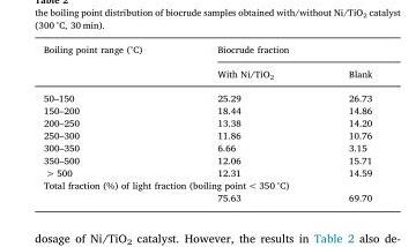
<table><thead><tr><td rowspan="2">Boiling point range (°C)</td><td colspan="2">Biocrude fraction</td></tr><tr><td>With Ni/TiO<sub>2</sub></td><td>Blank</td></tr></thead><tbody><tr><td>50–150</td><td>25.29</td><td>26.73</td></tr><tr><td>150–200</td><td>18.44</td><td>14.86</td></tr><tr><td>200–250</td><td>13.38</td><td>14.20</td></tr><tr><td>250–300</td><td>11.86</td><td>10.76</td></tr><tr><td>300–350</td><td>6.66</td><td>3.15</td></tr><tr><td>350–500</td><td>12.06</td><td>15.71</td></tr><tr><td>&gt; 500</td><td>12.31</td><td>14.59</td></tr><tr><td colspan="3">Total fraction (%) of light fraction (boiling point &lt; 350 °C)</td></tr><tr><td></td><td>75.63</td><td>69.70</td></tr></tbody></table>